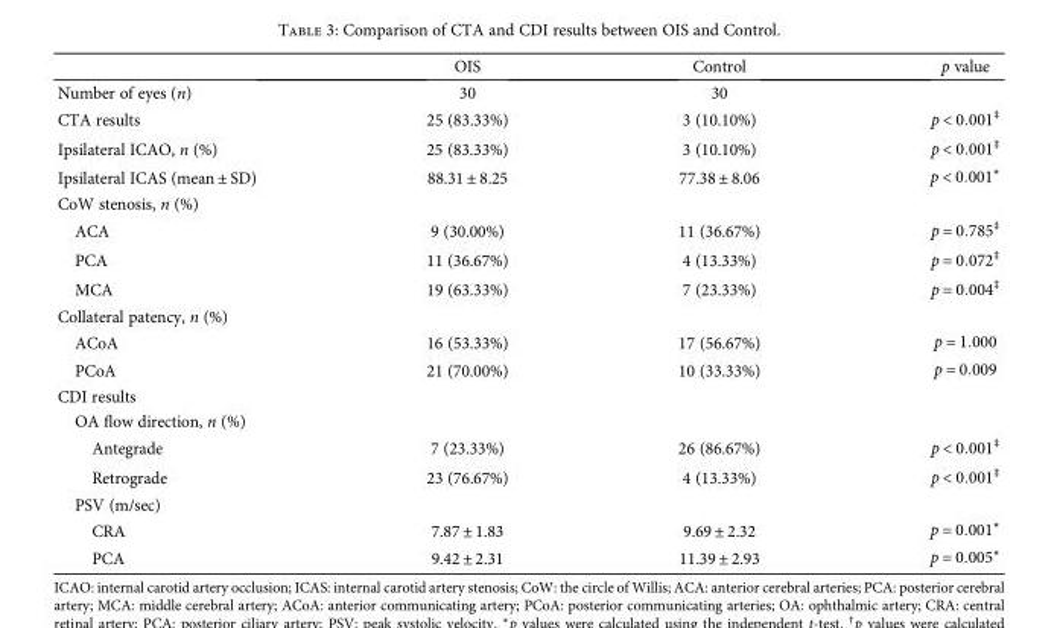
<table><thead><tr><td></td><td>OIS</td><td>Control</td><td>p value</td></tr></thead><tbody><tr><td>Number of eyes (n)</td><td>30</td><td>30</td><td></td></tr><tr><td>CTA results</td><td>25 (83.33%)</td><td>3 (10.10%)</td><td>p &lt; 0 001‡</td></tr><tr><td>Ipsilateral ICAO, n (%)</td><td>25 (83.33%)</td><td>3 (10.10%)</td><td>p &lt; 0 001‡</td></tr><tr><td>Ipsilateral ICAS (mean ± SD)</td><td>88.31 ± 8.25</td><td>77.38 ± 8.06</td><td>p &lt; 0 001∗</td></tr><tr><td colspan="4">CoW stenosis, n (%)</td></tr><tr><td>ACA</td><td>9 (30.00%)</td><td>11 (36.67%)</td><td>p = 0 785‡</td></tr><tr><td>PCA</td><td>11 (36.67%)</td><td>4 (13.33%)</td><td>p = 0 072‡</td></tr><tr><td>MCA</td><td>19 (63.33%)</td><td>7 (23.33%)</td><td>p = 0 004‡</td></tr><tr><td colspan="4">Collateral patency, n (%)</td></tr><tr><td>ACoA</td><td>16 (53.33%)</td><td>17 (56.67%)</td><td>p = 1 000</td></tr><tr><td>PCoA</td><td>21 (70.00%)</td><td>10 (33.33%)</td><td>p = 0 009</td></tr><tr><td colspan="4">CDI results</td></tr><tr><td colspan="4">OA flow direction, n (%)</td></tr><tr><td>Antegrade</td><td>7 (23.33%)</td><td>26 (86.67%)</td><td>p &lt; 0 001‡</td></tr><tr><td>Retrograde</td><td>23 (76.67%)</td><td>4 (13.33%)</td><td>p &lt; 0 001‡</td></tr><tr><td colspan="4">PSV (m/sec)</td></tr><tr><td>CRA</td><td>7.87 ± 1.83</td><td>9.69 ± 2.32</td><td>p = 0 001∗</td></tr><tr><td>PCA</td><td>9.42 ± 2.31</td><td>11.39 ± 2.93</td><td>p = 0 005∗</td></tr></tbody></table>